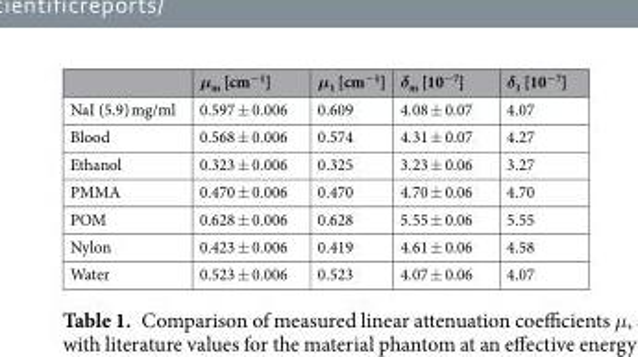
<table><thead><tr><td></td><td>μ<sub>m</sub> [cm<sup>−1</sup>]</td><td>μ<sub>1</sub> [cm<sup>−1</sup>]</td><td>δ<sub>m</sub> [10<sup>−7</sup>]</td><td>δ<sub>1</sub> [10<sup>−7</sup>]</td></tr></thead><tbody><tr><td>NaI (5.9) mg/ml</td><td>0.597 ± 0.006</td><td>0.609</td><td>4.08 ± 0.07</td><td>4.07</td></tr><tr><td>Blood</td><td>0.568 ± 0.006</td><td>0.574</td><td>4.31 ± 0.07</td><td>4.27</td></tr><tr><td>Ethanol</td><td>0.323 ± 0.006</td><td>0.325</td><td>3.23 ± 0.06</td><td>3.27</td></tr><tr><td>PMMA</td><td>0.470 ± 0.006</td><td>0.470</td><td>4.70 ± 0.06</td><td>4.70</td></tr><tr><td>POM</td><td>0.628 ± 0.006</td><td>0.628</td><td>5.55 ± 0.06</td><td>5.55</td></tr><tr><td>Nylon</td><td>0.423 ± 0.006</td><td>0.419</td><td>4.61 ± 0.06</td><td>4.58</td></tr><tr><td>Water</td><td>0.523 ± 0.006</td><td>0.523</td><td>4.07 ± 0.06</td><td>4.07</td></tr></tbody></table>